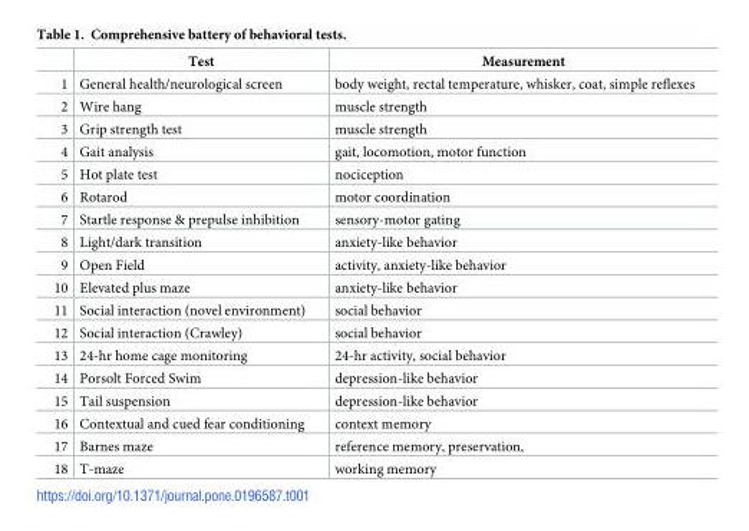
<table><thead><tr><td></td><td>Test</td><td>Measurement</td></tr></thead><tbody><tr><td>1</td><td>General health/neurological screen</td><td>body weight, rectal temperature, whisker, coat, simple reflexes</td></tr><tr><td>2</td><td>Wire hang</td><td>muscle strength</td></tr><tr><td>3</td><td>Grip strength test</td><td>muscle strength</td></tr><tr><td>4</td><td>Gait analysis</td><td>gait, locomotion, motor function</td></tr><tr><td>5</td><td>Hot plate test</td><td>nociception</td></tr><tr><td>6</td><td>Rotarod</td><td>motor coordination</td></tr><tr><td>7</td><td>Startle response &amp; prepulse inhibition</td><td>sensory-motor gating</td></tr><tr><td>8</td><td>Light/dark transition</td><td>anxiety-like behavior</td></tr><tr><td>9</td><td>Open Field</td><td>activity, anxiety-like behavior</td></tr><tr><td>10</td><td>Elevated plus maze</td><td>anxiety-like behavior</td></tr><tr><td>11</td><td>Social interaction (novel environment)</td><td>social behavior</td></tr><tr><td>12</td><td>Social interaction (Crawley)</td><td>social behavior</td></tr><tr><td>13</td><td>24-hr home cage monitoring</td><td>24-hr activity, social behavior</td></tr><tr><td>14</td><td>Porsolt Forced Swim</td><td>depression-like behavior</td></tr><tr><td>15</td><td>Tail suspension</td><td>depression-like behavior</td></tr><tr><td>16</td><td>Contextual and cued fear conditioning</td><td>context memory</td></tr><tr><td>17</td><td>Barnes maze</td><td>reference memory, preservation,</td></tr><tr><td>18</td><td>T-maze</td><td>working memory</td></tr></tbody></table>